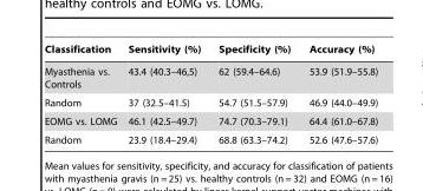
<table><thead><tr><td>Classification</td><td>Sensitivity (%)</td><td>Specificity (%)</td><td>Accuracy (%)</td></tr></thead><tbody><tr><td>Myasthenia vs. Controls</td><td>43.4 (40.3–46,5)</td><td>62 (59.4–64.6)</td><td>53.9 (51.9–55.8)</td></tr><tr><td>Random</td><td>37 (32.5–41.5)</td><td>54.7 (51.5–57.9)</td><td>46.9 (44.0–49.9)</td></tr><tr><td>EOMG vs. LOMG</td><td>46.1 (42.5–49.7)</td><td>74.7 (70.3–79.1)</td><td>64.4 (61.0–67.8)</td></tr><tr><td>Random</td><td>23.9 (18.4–29.4)</td><td>68.8 (63.3–74.2)</td><td>52.6 (47.6–57.6)</td></tr></tbody></table>